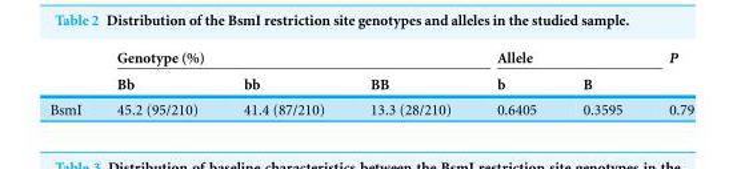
<table><thead><tr><td rowspan="2"></td><td colspan="3">Genotype (%)</td><td colspan="2">Allele</td><td rowspan="2">P</td></tr><tr><td>Bb</td><td>bb</td><td>BB</td><td>b</td><td>B</td></tr></thead><tbody><tr><td>BsmI</td><td>45.2 (95/210)</td><td>41.4 (87/210)</td><td>13.3 (28/210)</td><td>0.6405</td><td>0.3595</td><td>0.79</td></tr></tbody></table>